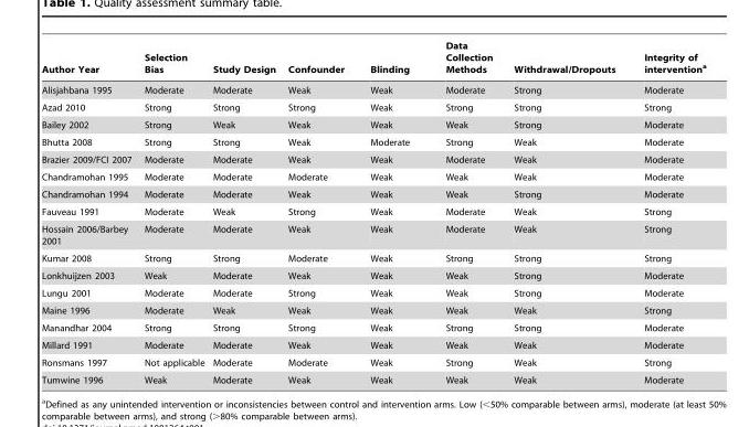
<table><thead><tr><td>Author Year</td><td>Selection Bias</td><td>Study Design</td><td>Confounder</td><td>Blinding</td><td>Data Collection Methods</td><td>Withdrawal/Dropouts</td><td>Integrity of intervention<sup>a</sup></td></tr></thead><tbody><tr><td>Alisjahbana 1995</td><td>Moderate</td><td>Moderate</td><td>Weak</td><td>Weak</td><td>Moderate</td><td>Strong</td><td>Moderate</td></tr><tr><td>Azad 2010</td><td>Strong</td><td>Strong</td><td>Strong</td><td>Weak</td><td>Strong</td><td>Strong</td><td>Strong</td></tr><tr><td>Bailey 2002</td><td>Strong</td><td>Weak</td><td>Weak</td><td>Weak</td><td>Weak</td><td>Strong</td><td>Moderate</td></tr><tr><td>Bhutta 2008</td><td>Strong</td><td>Strong</td><td>Weak</td><td>Moderate</td><td>Strong</td><td>Weak</td><td>Moderate</td></tr><tr><td>Brazier 2009/FCI 2007</td><td>Moderate</td><td>Moderate</td><td>Weak</td><td>Weak</td><td>Moderate</td><td>Weak</td><td>Moderate</td></tr><tr><td>Chandramohan 1995</td><td>Moderate</td><td>Moderate</td><td>Moderate</td><td>Weak</td><td>Weak</td><td>Weak</td><td>Moderate</td></tr><tr><td>Chandramohan 1994</td><td>Moderate</td><td>Moderate</td><td>Weak</td><td>Weak</td><td>Weak</td><td>Strong</td><td>Moderate</td></tr><tr><td>Fauveau 1991</td><td>Moderate</td><td>Weak</td><td>Strong</td><td>Weak</td><td>Moderate</td><td>Weak</td><td>Strong</td></tr><tr><td>Hossain 2006/Barbey 2001</td><td>Moderate</td><td>Moderate</td><td>Weak</td><td>Weak</td><td>Moderate</td><td>Weak</td><td>Strong</td></tr><tr><td>Kumar 2008</td><td>Strong</td><td>Strong</td><td>Moderate</td><td>Weak</td><td>Strong</td><td>Strong</td><td>Strong</td></tr><tr><td>Lonkhuijzen 2003</td><td>Weak</td><td>Moderate</td><td>Weak</td><td>Weak</td><td>Weak</td><td>Strong</td><td>Moderate</td></tr><tr><td>Lungu 2001</td><td>Moderate</td><td>Moderate</td><td>Strong</td><td>Weak</td><td>Weak</td><td>Strong</td><td>Moderate</td></tr><tr><td>Maine 1996</td><td>Moderate</td><td>Weak</td><td>Weak</td><td>Weak</td><td>Weak</td><td>Weak</td><td>Strong</td></tr><tr><td>Manandhar 2004</td><td>Strong</td><td>Strong</td><td>Strong</td><td>Weak</td><td>Strong</td><td>Strong</td><td>Moderate</td></tr><tr><td>Millard 1991</td><td>Moderate</td><td>Moderate</td><td>Weak</td><td>Weak</td><td>Weak</td><td>Weak</td><td>Moderate</td></tr><tr><td>Ronsmans 1997</td><td>Not applicable</td><td>Moderate</td><td>Moderate</td><td>Weak</td><td>Strong</td><td>Weak</td><td>Strong</td></tr><tr><td>Tumwine 1996</td><td>Weak</td><td>Moderate</td><td>Weak</td><td>Weak</td><td>Weak</td><td>Weak</td><td>Moderate</td></tr></tbody></table>